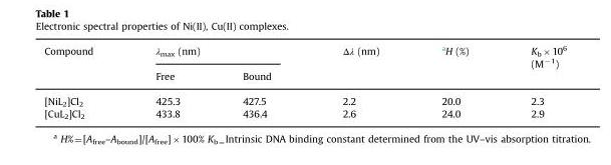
<table><thead><tr><td rowspan="2">Compound</td><td colspan="2">λ<sub>max</sub> (nm)</td><td rowspan="2">Δλ (nm)</td><td rowspan="2">aH (%)</td><td rowspan="2">K<sub>b</sub> × 10<sup>6</sup> (M<sup>−1</sup>)</td></tr><tr><td>Free</td><td>Bound</td></tr></thead><tbody><tr><td>[NiL<sub>2</sub>]Cl<sub>2</sub></td><td>425.3</td><td>427.5</td><td>2.2</td><td>20.0</td><td>2.3</td></tr><tr><td>[CuL<sub>2</sub>]Cl<sub>2</sub></td><td>433.8</td><td>436.4</td><td>2.6</td><td>24.0</td><td>2.9</td></tr></tbody></table>